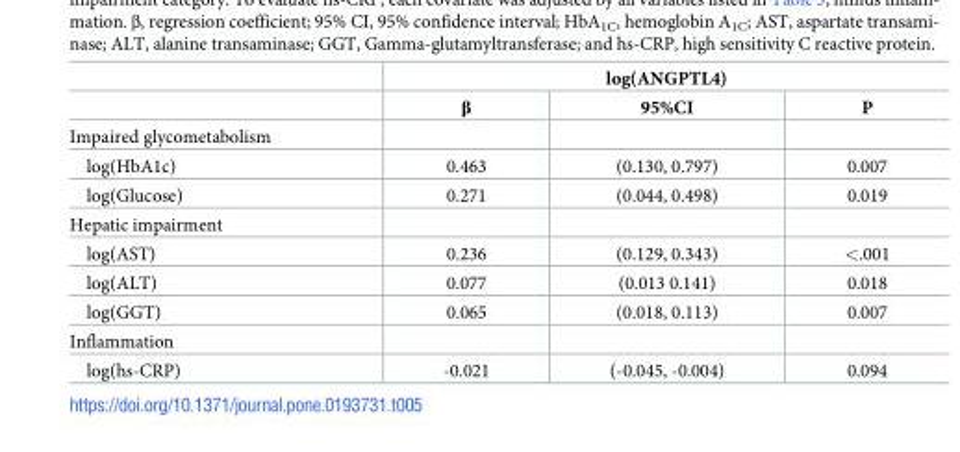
<table><thead><tr><td rowspan="2"></td><td colspan="3">log(ANGPTL4)</td></tr><tr><td>β</td><td>95%CI</td><td>P</td></tr></thead><tbody><tr><td colspan="4">Impaired glycometabolism</td></tr><tr><td>log(HbA1c)</td><td>0.463</td><td>(0.130, 0.797)</td><td>0.007</td></tr><tr><td>log(Glucose)</td><td>0.271</td><td>(0.044, 0.498)</td><td>0.019</td></tr><tr><td colspan="4">Hepatic impairment</td></tr><tr><td>log(AST)</td><td>0.236</td><td>(0.129, 0.343)</td><td>&lt;.001</td></tr><tr><td>log(ALT)</td><td>0.077</td><td>(0.013 0.141)</td><td>0.018</td></tr><tr><td>log(GGT)</td><td>0.065</td><td>(0.018, 0.113)</td><td>0.007</td></tr><tr><td colspan="4">Inflammation</td></tr><tr><td>log(hs-CRP)</td><td>-0.021</td><td>(-0.045, -0.004)</td><td>0.094</td></tr></tbody></table>